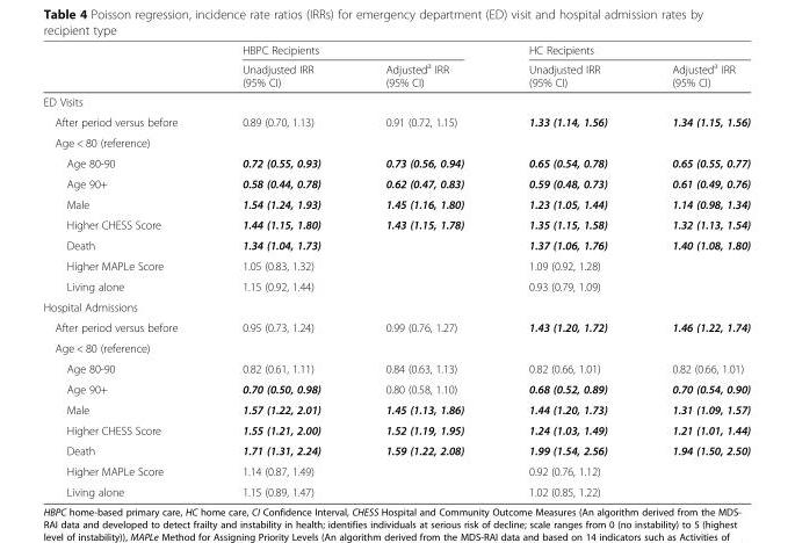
<table><thead><tr><td rowspan="2"></td><td colspan="2">HBPC Recipients</td><td colspan="2">HC Recipients</td></tr><tr><td>Unadjusted IRR (95% CI)</td><td>Adjusted<sup>a</sup> IRR (95% CI)</td><td>Unadjusted IRR (95% CI)</td><td>Adjusted<sup>a</sup> IRR (95% CI)</td></tr></thead><tbody><tr><td colspan="5">ED Visits</td></tr><tr><td>After period versus before</td><td>0.89 (0.70, 1.13)</td><td>0.91 (0.72, 1.15)</td><td>1.33 (1.14, 1.56)</td><td>1.34 (1.15, 1.56)</td></tr><tr><td colspan="5">Age &lt; 80 (reference)</td></tr><tr><td>Age 80-90</td><td>0.72 (0.55, 0.93)</td><td>0.73 (0.56, 0.94)</td><td>0.65 (0.54, 0.78)</td><td>0.65 (0.55, 0.77)</td></tr><tr><td>Age 90+</td><td>0.58 (0.44, 0.78)</td><td>0.62 (0.47, 0.83)</td><td>0.59 (0.48, 0.73)</td><td>0.61 (0.49, 0.76)</td></tr><tr><td>Male</td><td>1.54 (1.24, 1.93)</td><td>1.45 (1.16, 1.80)</td><td>1.23 (1.05, 1.44)</td><td>1.14 (0.98, 1.34)</td></tr><tr><td>Higher CHESS Score</td><td>1.44 (1.15, 1.80)</td><td>1.43 (1.15, 1.78)</td><td>1.35 (1.15, 1.58)</td><td>1.32 (1.13, 1.54)</td></tr><tr><td>Death</td><td>1.34 (1.04, 1.73)</td><td></td><td>1.37 (1.06, 1.76)</td><td>1.40 (1.08, 1.80)</td></tr><tr><td>Higher MAPLe Score</td><td>1.05 (0.83, 1.32)</td><td></td><td>1.09 (0.92, 1.28)</td><td></td></tr><tr><td>Living alone</td><td>1.15 (0.92, 1.44)</td><td></td><td>0.93 (0.79, 1.09)</td><td></td></tr><tr><td colspan="5">Hospital Admissions</td></tr><tr><td>After period versus before</td><td>0.95 (0.73, 1.24)</td><td>0.99 (0.76, 1.27)</td><td>1.43 (1.20, 1.72)</td><td>1.46 (1.22, 1.74)</td></tr><tr><td colspan="5">Age &lt; 80 (reference)</td></tr><tr><td>Age 80-90</td><td>0.82 (0.61, 1.11)</td><td>0.84 (0.63, 1.13)</td><td>0.82 (0.66, 1.01)</td><td>0.82 (0.66, 1.01)</td></tr><tr><td>Age 90+</td><td>0.70 (0.50, 0.98)</td><td>0.80 (0.58, 1.10)</td><td>0.68 (0.52, 0.89)</td><td>0.70 (0.54, 0.90)</td></tr><tr><td>Male</td><td>1.57 (1.22, 2.01)</td><td>1.45 (1.13, 1.86)</td><td>1.44 (1.20, 1.73)</td><td>1.31 (1.09, 1.57)</td></tr><tr><td>Higher CHESS Score</td><td>1.55 (1.21, 2.00)</td><td>1.52 (1.19, 1.95)</td><td>1.24 (1.03, 1.49)</td><td>1.21 (1.01, 1.44)</td></tr><tr><td>Death</td><td>1.71 (1.31, 2.24)</td><td>1.59 (1.22, 2.08)</td><td>1.99 (1.54, 2.56)</td><td>1.94 (1.50, 2.50)</td></tr><tr><td>Higher MAPLe Score</td><td>1.14 (0.87, 1.49)</td><td></td><td>0.92 (0.76, 1.12)</td><td></td></tr><tr><td>Living alone</td><td>1.15 (0.89, 1.47)</td><td></td><td>1.02 (0.85, 1.22)</td><td></td></tr></tbody></table>